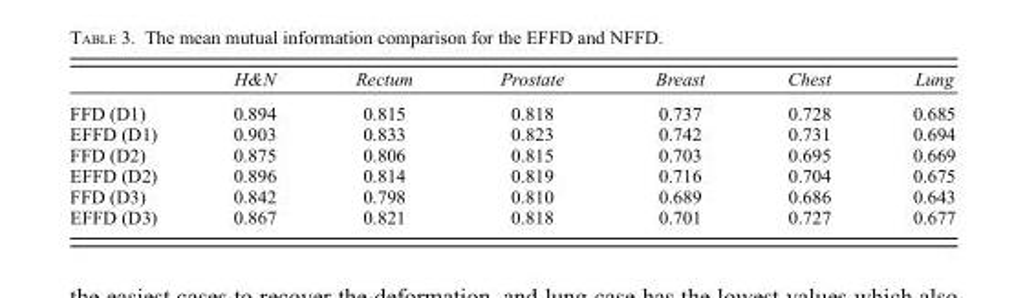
<table><thead><tr><td></td><td>H&amp;N</td><td>Rectum</td><td>Prostate</td><td>Breast</td><td>Chest</td><td>Lung</td></tr></thead><tbody><tr><td>FFD (D1)</td><td>0.894</td><td>0.815</td><td>0.818</td><td>0.737</td><td>0.728</td><td>0.685</td></tr><tr><td>EFFD (D1)</td><td>0.903</td><td>0.833</td><td>0.823</td><td>0.742</td><td>0.731</td><td>0.694</td></tr><tr><td>FFD (D2)</td><td>0.875</td><td>0.806</td><td>0.815</td><td>0.703</td><td>0.695</td><td>0.669</td></tr><tr><td>EFFD (D2)</td><td>0.896</td><td>0.814</td><td>0.819</td><td>0.716</td><td>0.704</td><td>0.675</td></tr><tr><td>FFD (D3)</td><td>0.842</td><td>0.798</td><td>0.810</td><td>0.689</td><td>0.686</td><td>0.643</td></tr><tr><td>EFFD (D3)</td><td>0.867</td><td>0.821</td><td>0.818</td><td>0.701</td><td>0.727</td><td>0.677</td></tr></tbody></table>